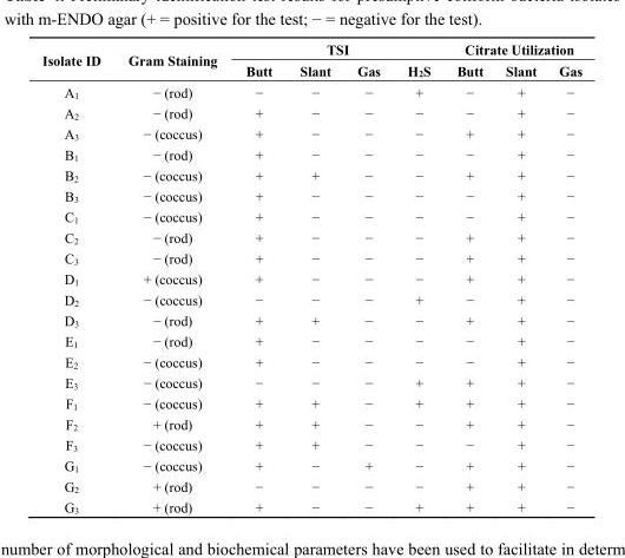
<table><thead><tr><td rowspan="2">Isolate ID</td><td rowspan="2">Gram Staining</td><td colspan="4">TSI</td><td colspan="3">Citrate Utilization</td></tr><tr><td>Butt</td><td>Slant</td><td>Gas</td><td>H<sub>2</sub>S</td><td>Butt</td><td>Slant</td><td>Gas</td></tr></thead><tbody><tr><td>A<sub>1</sub></td><td>− (rod)</td><td>−</td><td>−</td><td>−</td><td>+</td><td>−</td><td>+</td><td>−</td></tr><tr><td>A<sub>2</sub></td><td>− (rod)</td><td>+</td><td>−</td><td>−</td><td>−</td><td>−</td><td>+</td><td>−</td></tr><tr><td>A<sub>3</sub></td><td>− (coccus)</td><td>+</td><td>−</td><td>−</td><td>−</td><td>+</td><td>+</td><td>−</td></tr><tr><td>B<sub>1</sub></td><td>− (rod)</td><td>+</td><td>−</td><td>−</td><td>−</td><td>−</td><td>+</td><td>−</td></tr><tr><td>B<sub>2</sub></td><td>− (coccus)</td><td>+</td><td>+</td><td>−</td><td>−</td><td>+</td><td>+</td><td>−</td></tr><tr><td>B<sub>3</sub></td><td>− (coccus)</td><td>+</td><td>−</td><td>−</td><td>−</td><td>−</td><td>+</td><td>−</td></tr><tr><td>C<sub>1</sub></td><td>− (coccus)</td><td>+</td><td>−</td><td>−</td><td>−</td><td>−</td><td>+</td><td>−</td></tr><tr><td>C<sub>2</sub></td><td>− (rod)</td><td>+</td><td>−</td><td>−</td><td>−</td><td>+</td><td>+</td><td>−</td></tr><tr><td>C<sub>3</sub></td><td>− (rod)</td><td>+</td><td>−</td><td>−</td><td>−</td><td>+</td><td>+</td><td>−</td></tr><tr><td>D<sub>1</sub></td><td>+ (coccus)</td><td>+</td><td>−</td><td>−</td><td>−</td><td>+</td><td>+</td><td>−</td></tr><tr><td>D<sub>2</sub></td><td>− (coccus)</td><td>−</td><td>−</td><td>−</td><td>+</td><td>−</td><td>+</td><td>−</td></tr><tr><td>D<sub>3</sub></td><td>− (rod)</td><td>+</td><td>+</td><td>−</td><td>−</td><td>+</td><td>+</td><td>−</td></tr><tr><td>E<sub>1</sub></td><td>− (rod)</td><td>+</td><td>−</td><td>−</td><td>−</td><td>−</td><td>+</td><td>−</td></tr><tr><td>E<sub>2</sub></td><td>− (coccus)</td><td>+</td><td>−</td><td>−</td><td>−</td><td>−</td><td>+</td><td>−</td></tr><tr><td>E<sub>3</sub></td><td>− (coccus)</td><td>−</td><td>−</td><td>−</td><td>+</td><td>+</td><td>+</td><td>−</td></tr><tr><td>F<sub>1</sub></td><td>− (coccus)</td><td>+</td><td>+</td><td>−</td><td>+</td><td>+</td><td>+</td><td>−</td></tr><tr><td>F<sub>2</sub></td><td>+ (rod)</td><td>+</td><td>+</td><td>−</td><td>−</td><td>+</td><td>+</td><td>−</td></tr><tr><td>F<sub>3</sub></td><td>− (coccus)</td><td>+</td><td>+</td><td>−</td><td>−</td><td>−</td><td>+</td><td>−</td></tr><tr><td>G<sub>1</sub></td><td>− (coccus)</td><td>+</td><td>−</td><td>+</td><td>−</td><td>+</td><td>+</td><td>−</td></tr><tr><td>G<sub>2</sub></td><td>+ (rod)</td><td>−</td><td>−</td><td>−</td><td>−</td><td>+</td><td>+</td><td>−</td></tr><tr><td>G<sub>3</sub></td><td>+ (rod)</td><td>+</td><td>−</td><td>−</td><td>+</td><td>+</td><td>+</td><td>−</td></tr></tbody></table>